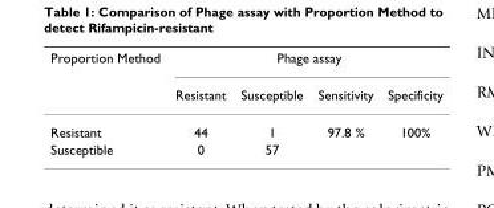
<table><thead><tr><td rowspan="2">Proportion Method</td><td colspan="4">Phage assay</td></tr><tr><td>Resistant</td><td>Susceptible</td><td>Sensitivity</td><td>Specificity</td></tr></thead><tbody><tr><td>Resistant</td><td>44</td><td>1</td><td>97.8 %</td><td>100%</td></tr><tr><td>Susceptible</td><td>0</td><td>57</td><td></td><td></td></tr></tbody></table>